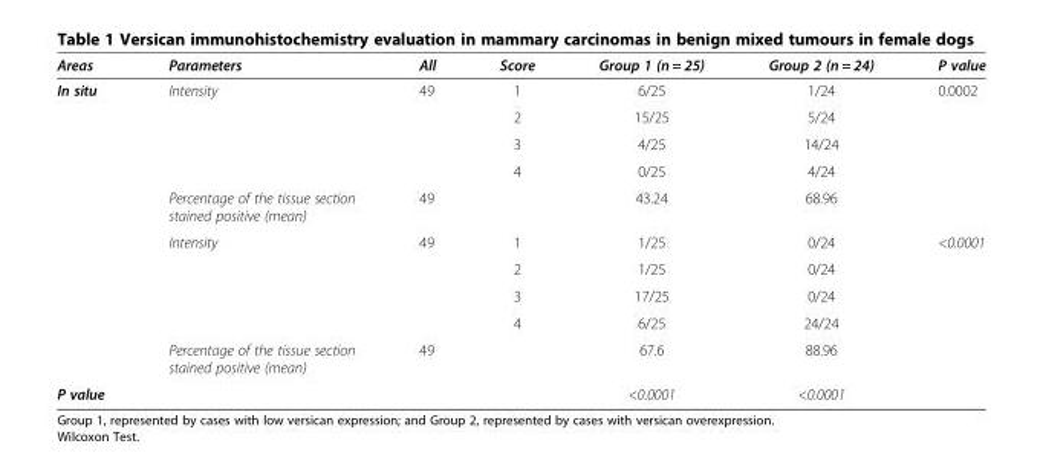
<table><thead><tr><td>Areas</td><td>Parameters</td><td>All</td><td>Score</td><td>Group 1 (n = 25)</td><td>Group 2 (n = 24)</td><td>P value</td></tr></thead><tbody><tr><td rowspan="10">In situ</td><td>Intensity</td><td>49</td><td>1</td><td>6/25</td><td>1/24</td><td>0.0002</td></tr><tr><td></td><td></td><td>2</td><td>15/25</td><td>5/24</td><td></td></tr><tr><td></td><td></td><td>3</td><td>4/25</td><td>14/24</td><td></td></tr><tr><td></td><td></td><td>4</td><td>0/25</td><td>4/24</td><td></td></tr><tr><td>Percentage of the tissue section stained positive (mean)</td><td>49</td><td></td><td>43.24</td><td>68.96</td><td></td></tr><tr><td>Intensity</td><td>49</td><td>1</td><td>1/25</td><td>0/24</td><td>&lt;0.0001</td></tr><tr><td></td><td></td><td>2</td><td>1/25</td><td>0/24</td><td></td></tr><tr><td></td><td></td><td>3</td><td>17/25</td><td>0/24</td><td></td></tr><tr><td></td><td></td><td>4</td><td>6/25</td><td>24/24</td><td></td></tr><tr><td>Percentage of the tissue section stained positive (mean)</td><td>49</td><td></td><td>67.6</td><td>88.96</td><td></td></tr><tr><td>P value</td><td></td><td></td><td></td><td>&lt;0.0001</td><td>&lt;0.0001</td><td></td></tr></tbody></table>